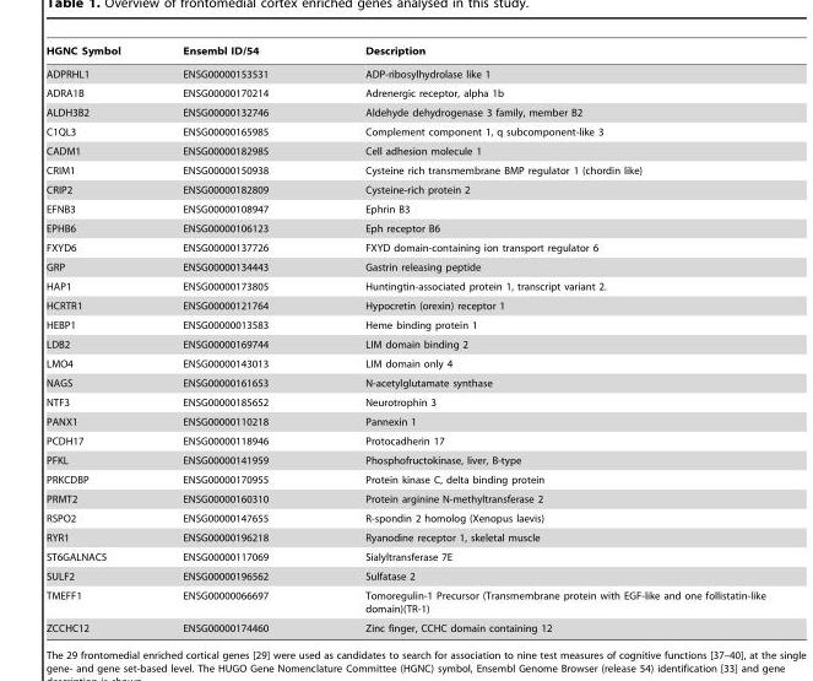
<table><thead><tr><td>HGNC Symbol</td><td>Ensembl ID/54</td><td>Description</td></tr></thead><tbody><tr><td>ADPRHL1</td><td>ENSG00000153531</td><td>ADP-ribosylhydrolase like 1</td></tr><tr><td>ADRA1B</td><td>ENSG00000170214</td><td>Adrenergic receptor, alpha 1b</td></tr><tr><td>ALDH3B2</td><td>ENSG00000132746</td><td>Aldehyde dehydrogenase 3 family, member B2</td></tr><tr><td>C1QL3</td><td>ENSG00000165985</td><td>Complement component 1, q subcomponent-like 3</td></tr><tr><td>CADM1</td><td>ENSG00000182985</td><td>Cell adhesion molecule 1</td></tr><tr><td>CRIM1</td><td>ENSG00000150938</td><td>Cysteine rich transmembrane BMP regulator 1 (chordin like)</td></tr><tr><td>CRIP2</td><td>ENSG00000182809</td><td>Cysteine-rich protein 2</td></tr><tr><td>EFNB3</td><td>ENSG00000108947</td><td>Ephrin B3</td></tr><tr><td>EPHB6</td><td>ENSG00000106123</td><td>Eph receptor B6</td></tr><tr><td>FXYD6</td><td>ENSG00000137726</td><td>FXYD domain-containing ion transport regulator 6</td></tr><tr><td>GRP</td><td>ENSG00000134443</td><td>Gastrin releasing peptide</td></tr><tr><td>HAP1</td><td>ENSG00000173805</td><td>Huntingtin-associated protein 1, transcript variant 2.</td></tr><tr><td>HCRTR1</td><td>ENSG00000121764</td><td>Hypocretin (orexin) receptor 1</td></tr><tr><td>HEBP1</td><td>ENSG00000013583</td><td>Heme binding protein 1</td></tr><tr><td>LDB2</td><td>ENSG00000169744</td><td>LIM domain binding 2</td></tr><tr><td>LMO4</td><td>ENSG00000143013</td><td>LIM domain only 4</td></tr><tr><td>NAGS</td><td>ENSG00000161653</td><td>N-acetylglutamate synthase</td></tr><tr><td>NTF3</td><td>ENSG00000185652</td><td>Neurotrophin 3</td></tr><tr><td>PANX1</td><td>ENSG00000110218</td><td>Pannexin 1</td></tr><tr><td>PCDH17</td><td>ENSG00000118946</td><td>Protocadherin 17</td></tr><tr><td>PFKL</td><td>ENSG00000141959</td><td>Phosphofructokinase, liver, B-type</td></tr><tr><td>PRKCDBP</td><td>ENSG00000170955</td><td>Protein kinase C, delta binding protein</td></tr><tr><td>PRMT2</td><td>ENSG00000160310</td><td>Protein arginine N-methyltransferase 2</td></tr><tr><td>RSPO2</td><td>ENSG00000147655</td><td>R-spondin 2 homolog (Xenopus laevis)</td></tr><tr><td>RYR1</td><td>ENSG00000196218</td><td>Ryanodine receptor 1, skeletal muscle</td></tr><tr><td>ST6GALNAC5</td><td>ENSG00000117069</td><td>Sialyltransferase 7E</td></tr><tr><td>SULF2</td><td>ENSG00000196562</td><td>Sulfatase 2</td></tr><tr><td>TMEFF1</td><td>ENSG00000066697</td><td>Tomoregulin-1 Precursor (Transmembrane protein with EGF-like and one follistatin-like domain)(TR-1)</td></tr><tr><td>ZCCHC12</td><td>ENSG00000174460</td><td>Zinc finger, CCHC domain containing 12</td></tr></tbody></table>